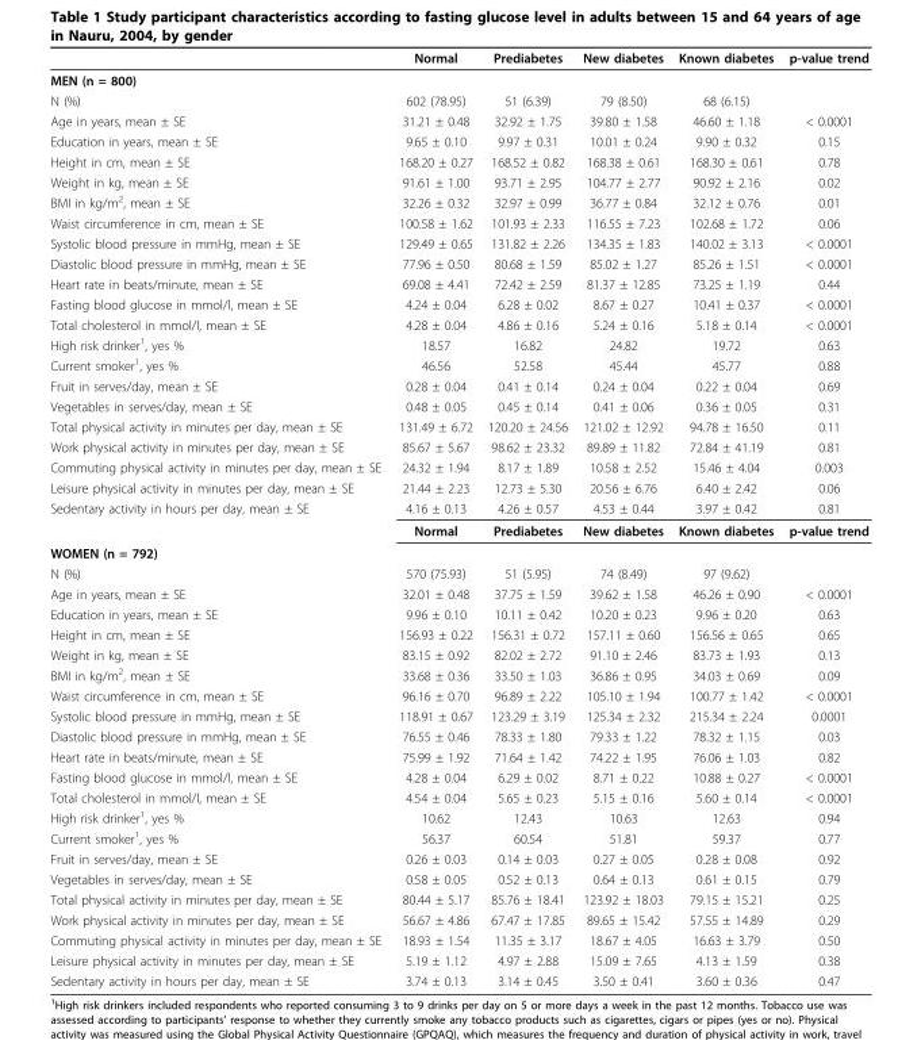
<table><thead><tr><td></td><td>Normal</td><td>Prediabetes</td><td>New diabetes</td><td>Known diabetes</td><td>p-value trend</td></tr></thead><tbody><tr><td colspan="6">MEN (n = 800)</td></tr><tr><td>N (%)</td><td>602 (78.95)</td><td>51 (6.39)</td><td>79 (8.50)</td><td>68 (6.15)</td><td></td></tr><tr><td>Age in years, mean ± SE</td><td>31.21 ± 0.48</td><td>32.92 ± 1.75</td><td>39.80 ± 1.58</td><td>46.60 ± 1.18</td><td>&lt; 0.0001</td></tr><tr><td>Education in years, mean ± SE</td><td>9.65 ± 0.10</td><td>9.97 ± 0.31</td><td>10.01 ± 0.24</td><td>9.90 ± 0.32</td><td>0.15</td></tr><tr><td>Height in cm, mean ± SE</td><td>168.20 ± 0.27</td><td>168.52 ± 0.82</td><td>168.38 ± 0.61</td><td>168.30 ± 0.61</td><td>0.78</td></tr><tr><td>Weight in kg, mean ± SE</td><td>91.61 ± 1.00</td><td>93.71 ± 2.95</td><td>104.77 ± 2.77</td><td>90.92 ± 2.16</td><td>0.02</td></tr><tr><td>BMI in kg/m<sup>2</sup>, mean ± SE</td><td>32.26 ± 0.32</td><td>32.97 ± 0.99</td><td>36.77 ± 0.84</td><td>32.12 ± 0.76</td><td>0.01</td></tr><tr><td>Waist circumference in cm, mean ± SE</td><td>100.58 ± 1.62</td><td>101.93 ± 2.33</td><td>116.55 ± 7.23</td><td>102.68 ± 1.72</td><td>0.06</td></tr><tr><td>Systolic blood pressure in mmHg, mean ± SE</td><td>129.49 ± 0.65</td><td>131.82 ± 2.26</td><td>134.35 ± 1.83</td><td>140.02 ± 3.13</td><td>&lt; 0.0001</td></tr><tr><td>Diastolic blood pressure in mmHg, mean ± SE</td><td>77.96 ± 0.50</td><td>80.68 ± 1.59</td><td>85.02 ± 1.27</td><td>85.26 ± 1.51</td><td>&lt; 0.0001</td></tr><tr><td>Heart rate in beats/minute, mean ± SE</td><td>69.08 ± 4.41</td><td>72.42 ± 2.59</td><td>81.37 ± 12.85</td><td>73.25 ± 1.19</td><td>0.44</td></tr><tr><td>Fasting blood glucose in mmol/l, mean ± SE</td><td>4.24 ± 0.04</td><td>6.28 ± 0.02</td><td>8.67 ± 0.27</td><td>10.41 ± 0.37</td><td>&lt; 0.0001</td></tr><tr><td>Total cholesterol in mmol/l, mean ± SE</td><td>4.28 ± 0.04</td><td>4.86 ± 0.16</td><td>5.24 ± 0.16</td><td>5.18 ± 0.14</td><td>&lt; 0.0001</td></tr><tr><td>High risk drinker<sup>1</sup>, yes %</td><td>18.57</td><td>16.82</td><td>24.82</td><td>19.72</td><td>0.63</td></tr><tr><td>Current smoker<sup>1</sup>, yes %</td><td>46.56</td><td>52.58</td><td>45.44</td><td>45.77</td><td>0.88</td></tr><tr><td>Fruit in serves/day, mean ± SE</td><td>0.28 ± 0.04</td><td>0.41 ± 0.14</td><td>0.24 ± 0.04</td><td>0.22 ± 0.04</td><td>0.69</td></tr><tr><td>Vegetables in serves/day, mean ± SE</td><td>0.48 ± 0.05</td><td>0.45 ± 0.14</td><td>0.41 ± 0.06</td><td>0.36 ± 0.05</td><td>0.31</td></tr><tr><td>Total physical activity in minutes per day, mean ± SE</td><td>131.49 ± 6.72</td><td>120.20 ± 24.56</td><td>121.02 ± 12.92</td><td>94.78 ± 16.50</td><td>0.11</td></tr><tr><td>Work physical activity in minutes per day, mean ± SE</td><td>85.67 ± 5.67</td><td>98.62 ± 23.32</td><td>89.89 ± 11.82</td><td>72.84 ± 41.19</td><td>0.81</td></tr><tr><td>Commuting physical activity in minutes per day, mean ± SE</td><td>24.32 ± 1.94</td><td>8.17 ± 1.89</td><td>10.58 ± 2.52</td><td>15.46 ± 4.04</td><td>0.003</td></tr><tr><td>Leisure physical activity in minutes per day, mean ± SE</td><td>21.44 ± 2.23</td><td>12.73 ± 5.30</td><td>20.56 ± 6.76</td><td>6.40 ± 2.42</td><td>0.06</td></tr><tr><td rowspan="2">Sedentary activity in hours per day, mean ± SE</td><td>4.16 ± 0.13</td><td>4.26 ± 0.57</td><td>4.53 ± 0.44</td><td>3.97 ± 0.42</td><td>0.81</td></tr><tr><td>Normal</td><td>Prediabetes</td><td>New diabetes</td><td>Known diabetes</td><td>p-value trend</td></tr><tr><td colspan="6">WOMEN (n = 792)</td></tr><tr><td>N (%)</td><td>570 (75.93)</td><td>51 (5.95)</td><td>74 (8.49)</td><td>97 (9.62)</td><td></td></tr><tr><td>Age in years, mean ± SE</td><td>32.01 ± 0.48</td><td>37.75 ± 1.59</td><td>39.62 ± 1.58</td><td>46.26 ± 0.90</td><td>&lt; 0.0001</td></tr><tr><td>Education in years, mean ± SE</td><td>9.96 ± 0.10</td><td>10.11 ± 0.42</td><td>10.20 ± 0.23</td><td>9.96 ± 0.20</td><td>0.63</td></tr><tr><td>Height in cm, mean ± SE</td><td>156.93 ± 0.22</td><td>156.31 ± 0.72</td><td>157.11 ± 0.60</td><td>156.56 ± 0.65</td><td>0.65</td></tr><tr><td>Weight in kg, mean ± SE</td><td>83.15 ± 0.92</td><td>82.02 ± 2.72</td><td>91.10 ± 2.46</td><td>83.73 ± 1.93</td><td>0.13</td></tr><tr><td>BMI in kg/m<sup>2</sup>, mean ± SE</td><td>33.68 ± 0.36</td><td>33.50 ± 1.03</td><td>36.86 ± 0.95</td><td>34.03 ± 0.69</td><td>0.09</td></tr><tr><td>Waist circumference in cm, mean ± SE</td><td>96.16 ± 0.70</td><td>96.89 ± 2.22</td><td>105.10 ± 1.94</td><td>100.77 ± 1.42</td><td>&lt; 0.0001</td></tr><tr><td>Systolic blood pressure in mmHg, mean ± SE</td><td>118.91 ± 0.67</td><td>123.29 ± 3.19</td><td>125.34 ± 2.32</td><td>215.34 ± 2.24</td><td>0.0001</td></tr><tr><td>Diastolic blood pressure in mmHg, mean ± SE</td><td>76.55 ± 0.46</td><td>78.33 ± 1.80</td><td>79.33 ± 1.22</td><td>78.32 ± 1.15</td><td>0.03</td></tr><tr><td>Heart rate in beats/minute, mean ± SE</td><td>75.99 ± 1.92</td><td>71.64 ± 1.42</td><td>74.22 ± 1.95</td><td>76.06 ± 1.03</td><td>0.82</td></tr><tr><td>Fasting blood glucose in mmol/l, mean ± SE</td><td>4.28 ± 0.04</td><td>6.29 ± 0.02</td><td>8.71 ± 0.22</td><td>10.88 ± 0.27</td><td>&lt; 0.0001</td></tr><tr><td>Total cholesterol in mmol/l, mean ± SE</td><td>4.54 ± 0.04</td><td>5.65 ± 0.23</td><td>5.15 ± 0.16</td><td>5.60 ± 0.14</td><td>&lt; 0.0001</td></tr><tr><td>High risk drinker<sup>1</sup>, yes %</td><td>10.62</td><td>12.43</td><td>10.63</td><td>12.63</td><td>0.94</td></tr><tr><td>Current smoker<sup>1</sup>, yes %</td><td>56.37</td><td>60.54</td><td>51.81</td><td>59.37</td><td>0.77</td></tr><tr><td>Fruit in serves/day, mean ± SE</td><td>0.26 ± 0.03</td><td>0.14 ± 0.03</td><td>0.27 ± 0.05</td><td>0.28 ± 0.08</td><td>0.92</td></tr><tr><td>Vegetables in serves/day, mean ± SE</td><td>0.58 ± 0.05</td><td>0.52 ± 0.13</td><td>0.64 ± 0.13</td><td>0.61 ± 0.15</td><td>0.79</td></tr><tr><td>Total physical activity in minutes per day, mean ± SE</td><td>80.44 ± 5.17</td><td>85.76 ± 18.41</td><td>123.92 ± 18.03</td><td>79.15 ± 15.21</td><td>0.25</td></tr><tr><td>Work physical activity in minutes per day, mean ± SE</td><td>56.67 ± 4.86</td><td>67.47 ± 17.85</td><td>89.65 ± 15.42</td><td>57.55 ± 14.89</td><td>0.29</td></tr><tr><td>Commuting physical activity in minutes per day, mean ± SE</td><td>18.93 ± 1.54</td><td>11.35 ± 3.17</td><td>18.67 ± 4.05</td><td>16.63 ± 3.79</td><td>0.50</td></tr><tr><td>Leisure physical activity in minutes per day, mean ± SE</td><td>5.19 ± 1.12</td><td>4.97 ± 2.88</td><td>15.09 ± 7.65</td><td>4.13 ± 1.59</td><td>0.38</td></tr><tr><td>Sedentary activity in hours per day, mean ± SE</td><td>3.74 ± 0.13</td><td>3.14 ± 0.45</td><td>3.50 ± 0.41</td><td>3.60 ± 0.36</td><td>0.47</td></tr></tbody></table>